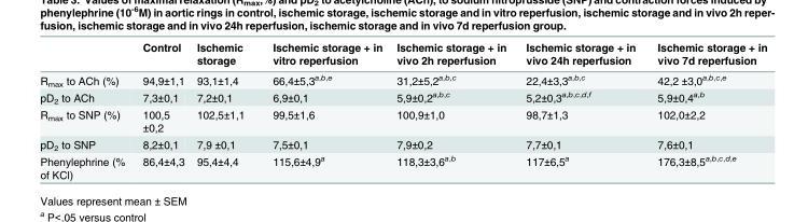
<table><thead><tr><td></td><td>Control</td><td>Ischemic storage</td><td>Ischemic storage + in vitro reperfusion</td><td>Ischemic storage + in vivo 2h reperfusion</td><td>Ischemic storage + in vivo 24h reperfusion</td><td>Ischemic storage + in vivo 7d reperfusion</td></tr></thead><tbody><tr><td>R<sub>max</sub> to ACh (%)</td><td>94,9±1,1</td><td>93,1±1,4</td><td>66,4±5,3<sup>a,b,e</sup></td><td>31,2±5,2<sup>a,b,c</sup></td><td>22,4±3,3<sup>a,b,c</sup></td><td>42,2 ±3,0<sup>a,b,c,e</sup></td></tr><tr><td>pD<sub>2</sub> to ACh</td><td>7,3±0,1</td><td>7,2±0,1</td><td>6,9±0,1</td><td>5,9±0,2<sup>a,b,c</sup></td><td>5,2±0,3<sup>a,b,c,d,f</sup></td><td>5,9±0,4<sup>a,b</sup></td></tr><tr><td>R<sub>max</sub> to SNP (%)</td><td>100,5 ±0,2</td><td>102,5±1,1</td><td>99,5±1,6</td><td>100,9±1,0</td><td>98,7±1,3</td><td>102,0±2,2</td></tr><tr><td>pD<sub>2</sub> to SNP</td><td>8,2±0,1</td><td>7,9 ±0,1</td><td>7,5±0,1</td><td>7,9±0,2</td><td>7,7±0,1</td><td>7,6±0,1</td></tr><tr><td>Phenylephrine (% of KCl)</td><td>86,4±4,3</td><td>95,4±4,4</td><td>115,6±4,9<sup>a</sup></td><td>118,3±3,6<sup>a,b</sup></td><td>117±6,5<sup>a</sup></td><td>176,3±8,5<sup>a,b,c,d,e</sup></td></tr></tbody></table>